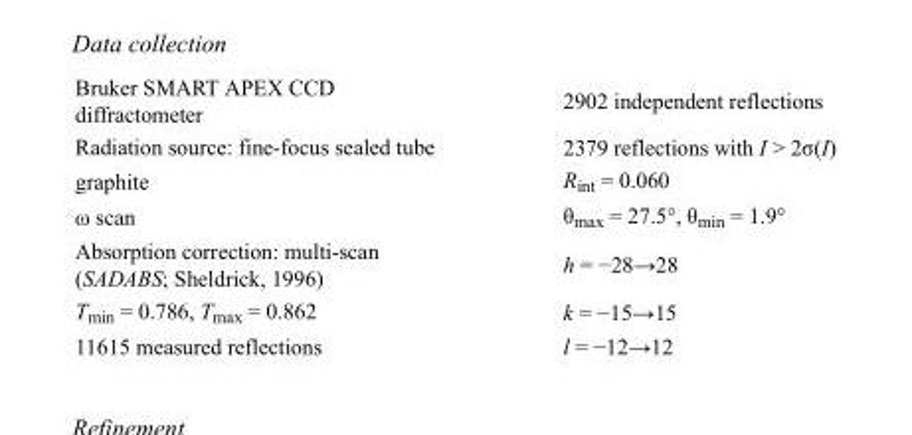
<table><tbody><tr><td>Bruker SMART APEX CCD diffractometer</td><td>2902 independent reflections</td></tr><tr><td>Radiation source: fine-focus sealed tube</td><td>2379 reflections with I &gt; 2σ(I)</td></tr><tr><td>graphite</td><td>R<sub>int</sub> = 0.060</td></tr><tr><td>ω scan</td><td>θ<sub>max</sub> = 27.5°, θ<sub>min</sub> = 1.9°</td></tr><tr><td>Absorption correction: multi-scan (SADABS; Sheldrick, 1996)</td><td>h = −28→28</td></tr><tr><td>T<sub>min</sub> = 0.786, T<sub>max</sub> = 0.862</td><td>k = −15→15</td></tr><tr><td>11615 measured reflections</td><td>l = −12→12</td></tr></tbody></table>